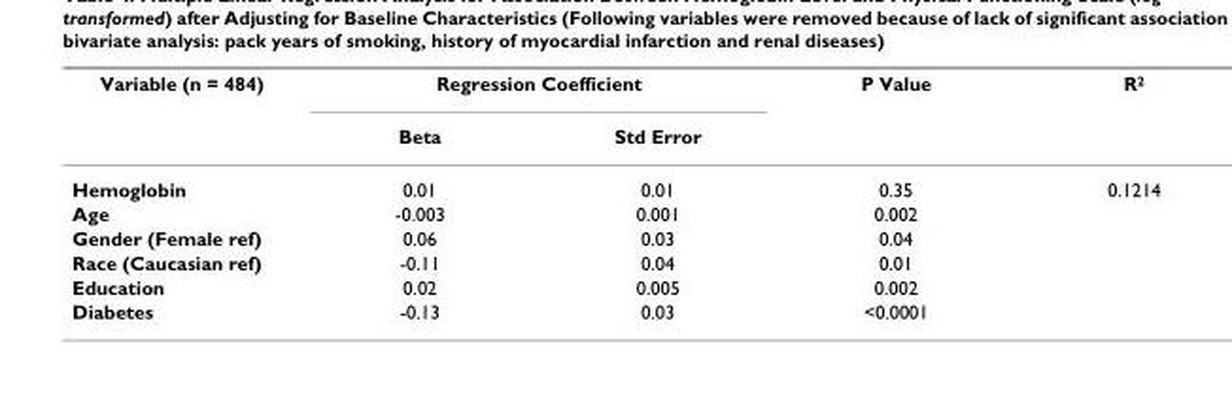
<table><thead><tr><td rowspan="2">Variable (n = 484)</td><td colspan="2">Regression Coefficient</td><td rowspan="2">P Value</td><td rowspan="2">R2</td></tr><tr><td>Beta</td><td>Std Error</td></tr></thead><tbody><tr><td>Hemoglobin</td><td>0.01</td><td>0.01</td><td>0.35</td><td>0.1214</td></tr><tr><td>Age</td><td>-0.003</td><td>0.001</td><td>0.002</td><td></td></tr><tr><td>Gender (Female ref)</td><td>0.06</td><td>0.03</td><td>0.04</td><td></td></tr><tr><td>Race (Caucasian ref)</td><td>-0.11</td><td>0.04</td><td>0.01</td><td></td></tr><tr><td>Education</td><td>0.02</td><td>0.005</td><td>0.002</td><td></td></tr><tr><td>Diabetes</td><td>-0.13</td><td>0.03</td><td>&lt;0.0001</td><td></td></tr></tbody></table>